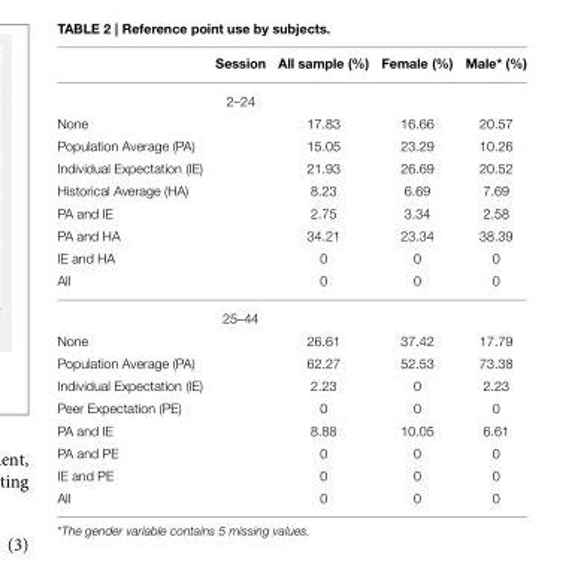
<table><thead><tr><td></td><td>Session</td><td>All sample (%)</td><td>Female (%)</td><td>Male* (%)</td></tr></thead><tbody><tr><td></td><td>2–24</td><td></td><td></td><td></td></tr><tr><td>None</td><td></td><td>17.83</td><td>16.66</td><td>20.57</td></tr><tr><td>Population Average (PA)</td><td></td><td>15.05</td><td>23.29</td><td>10.26</td></tr><tr><td>Individual Expectation (IE)</td><td></td><td>21.93</td><td>26.69</td><td>20.52</td></tr><tr><td>Historical Average (HA)</td><td></td><td>8.23</td><td>6.69</td><td>7.69</td></tr><tr><td>PA and IE</td><td></td><td>2.75</td><td>3.34</td><td>2.58</td></tr><tr><td>PA and HA</td><td></td><td>34.21</td><td>23.34</td><td>38.39</td></tr><tr><td>IE and HA</td><td></td><td>0</td><td>0</td><td>0</td></tr><tr><td rowspan="2">All</td><td></td><td>0</td><td>0</td><td>0</td></tr><tr><td>25–44</td><td></td><td></td><td></td></tr><tr><td>None</td><td></td><td>26.61</td><td>37.42</td><td>17.79</td></tr><tr><td>Population Average (PA)</td><td></td><td>62.27</td><td>52.53</td><td>73.38</td></tr><tr><td>Individual Expectation (IE)</td><td></td><td>2.23</td><td>0</td><td>2.23</td></tr><tr><td>Peer Expectation (PE)</td><td></td><td>0</td><td>0</td><td>0</td></tr><tr><td>PA and IE</td><td></td><td>8.88</td><td>10.05</td><td>6.61</td></tr><tr><td>PA and PE</td><td></td><td>0</td><td>0</td><td>0</td></tr><tr><td>IE and PE</td><td></td><td>0</td><td>0</td><td>0</td></tr><tr><td>All</td><td></td><td>0</td><td>0</td><td>0</td></tr></tbody></table>